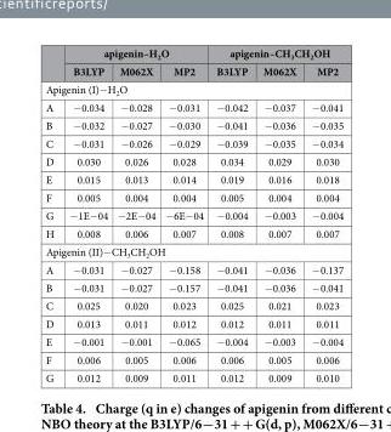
<table><thead><tr><td rowspan="2"></td><td colspan="3">apigenin–H<sub>2</sub>O</td><td colspan="3">apigenin–CH<sub>3</sub>CH<sub>2</sub>OH</td></tr><tr><td>B3LYP</td><td>M062X</td><td>MP2</td><td>B3LYP</td><td>M062X</td><td>MP2</td></tr></thead><tbody><tr><td colspan="7">Apigenin (I)− H<sub>2</sub>O</td></tr><tr><td>A</td><td>− 0.034</td><td>− 0.028</td><td>− 0.031</td><td>− 0.042</td><td>− 0.037</td><td>− 0.041</td></tr><tr><td>B</td><td>− 0.032</td><td>− 0.027</td><td>− 0.030</td><td>− 0.041</td><td>− 0.036</td><td>− 0.035</td></tr><tr><td>C</td><td>− 0.031</td><td>− 0.026</td><td>− 0.029</td><td>− 0.039</td><td>− 0.035</td><td>− 0.034</td></tr><tr><td>D</td><td>0.030</td><td>0.026</td><td>0.028</td><td>0.034</td><td>0.029</td><td>0.030</td></tr><tr><td>E</td><td>0.015</td><td>0.013</td><td>0.014</td><td>0.019</td><td>0.016</td><td>0.018</td></tr><tr><td>F</td><td>0.005</td><td>0.004</td><td>0.004</td><td>0.005</td><td>0.004</td><td>0.004</td></tr><tr><td>G</td><td>− 1E− 04</td><td>− 2E− 04</td><td>− 6E− 04</td><td>− 0.004</td><td>− 0.003</td><td>− 0.004</td></tr><tr><td>H</td><td>0.008</td><td>0.006</td><td>0.007</td><td>0.008</td><td>0.007</td><td>0.007</td></tr><tr><td colspan="7">Apigenin (II)− CH<sub>3</sub>CH<sub>2</sub>OH</td></tr><tr><td>A</td><td>− 0.031</td><td>− 0.027</td><td>− 0.158</td><td>− 0.041</td><td>− 0.036</td><td>− 0.137</td></tr><tr><td>B</td><td>− 0.031</td><td>− 0.027</td><td>− 0.157</td><td>− 0.041</td><td>− 0.036</td><td>− 0.041</td></tr><tr><td>C</td><td>0.025</td><td>0.020</td><td>0.023</td><td>0.025</td><td>0.021</td><td>0.023</td></tr><tr><td>D</td><td>0.013</td><td>0.011</td><td>0.012</td><td>0.012</td><td>0.011</td><td>0.011</td></tr><tr><td>E</td><td>− 0.001</td><td>− 0.001</td><td>− 0.065</td><td>− 0.004</td><td>− 0.003</td><td>− 0.004</td></tr><tr><td>F</td><td>0.006</td><td>0.005</td><td>0.006</td><td>0.006</td><td>0.005</td><td>0.006</td></tr><tr><td>G</td><td>0.012</td><td>0.009</td><td>0.011</td><td>0.012</td><td>0.009</td><td>0.010</td></tr></tbody></table>